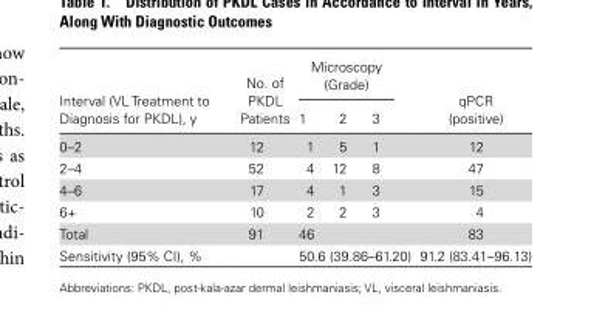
<table><thead><tr><td rowspan="2">Interval (VL Treatment to Diagnosis for PKDL), y</td><td rowspan="2">No. of PKDL Patients</td><td colspan="3">Microscopy (Grade)</td><td rowspan="2">qPCR (positive)</td></tr><tr><td>1</td><td>2</td><td>3</td></tr></thead><tbody><tr><td>0–2</td><td>12</td><td>1</td><td>5</td><td>1</td><td>12</td></tr><tr><td>2–4</td><td>52</td><td>4</td><td>12</td><td>8</td><td>47</td></tr><tr><td>4–6</td><td>17</td><td>4</td><td>1</td><td>3</td><td>15</td></tr><tr><td>6+</td><td>10</td><td>2</td><td>2</td><td>3</td><td>4</td></tr><tr><td>Total</td><td>91</td><td colspan="3">46</td><td>83</td></tr><tr><td>Sensitivity (95% CI), %</td><td></td><td colspan="3">50.6 (39.86–61.20)</td><td>91.2 (83.41–96.13)</td></tr></tbody></table>